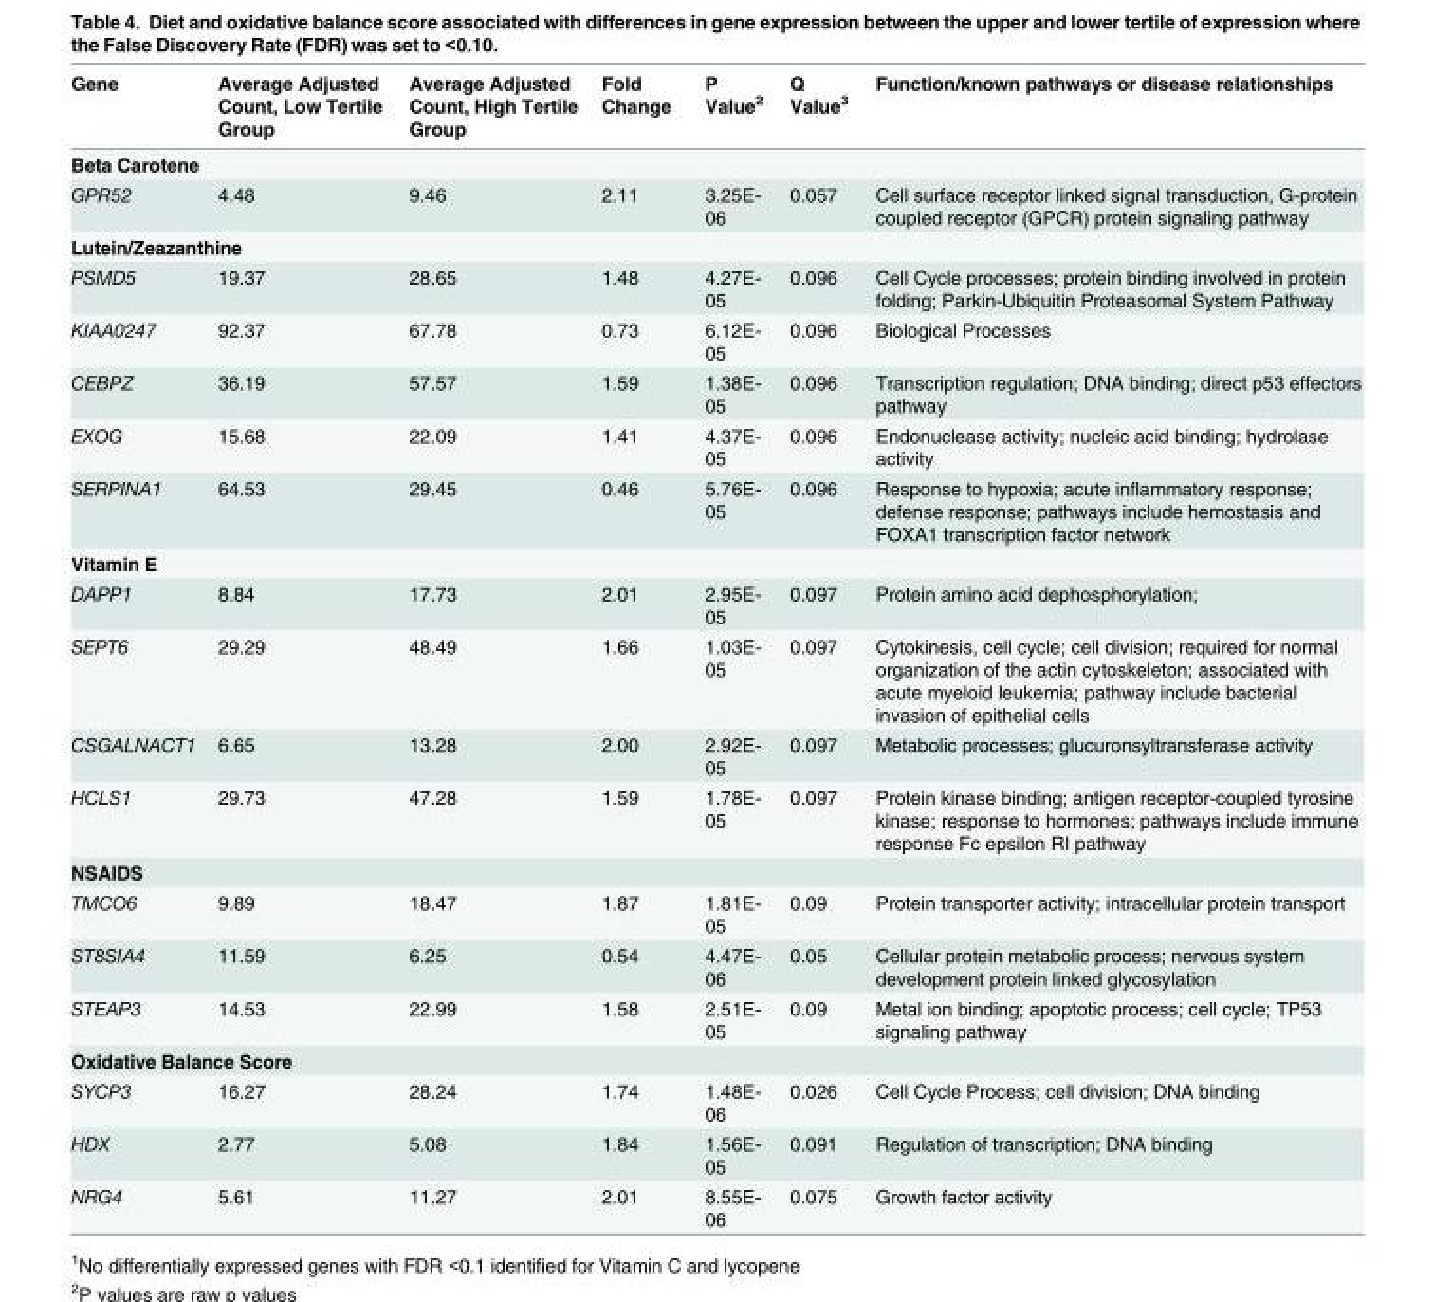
<table><thead><tr><td>Gene</td><td>Average Adjusted Count, Low Tertile Group</td><td>Average Adjusted Count, High Tertile Group</td><td>Fold Change</td><td>P Value<sup>2</sup></td><td>Q Value<sup>3</sup></td><td>Function/known pathways or disease relationships</td></tr></thead><tbody><tr><td colspan="7">Beta Carotene</td></tr><tr><td>GPR52</td><td>4.48</td><td>9.46</td><td>2.11</td><td>3.25E- 06</td><td>0.057</td><td>Cell surface receptor linked signal transduction, G-protein coupled receptor (GPCR) protein signaling pathway</td></tr><tr><td colspan="7">Lutein/Zeazanthine</td></tr><tr><td>PSMD5</td><td>19.37</td><td>28.65</td><td>1.48</td><td>4.27E- 05</td><td>0.096</td><td>Cell Cycle processes; protein binding involved in protein folding; Parkin-Ubiquitin Proteasomal System Pathway</td></tr><tr><td>KIAA0247</td><td>92.37</td><td>67.78</td><td>0.73</td><td>6.12E- 05</td><td>0.096</td><td>Biological Processes</td></tr><tr><td>CEBPZ</td><td>36.19</td><td>57.57</td><td>1.59</td><td>1.38E- 05</td><td>0.096</td><td>Transcription regulation; DNA binding; direct p53 effectors pathway</td></tr><tr><td>EXOG</td><td>15.68</td><td>22.09</td><td>1.41</td><td>4.37E- 05</td><td>0.096</td><td>Endonuclease activity; nucleic acid binding; hydrolase activity</td></tr><tr><td>SERPINA1</td><td>64.53</td><td>29.45</td><td>0.46</td><td>5.76E- 05</td><td>0.096</td><td>Response to hypoxia; acute inflammatory response; defense response; pathways include hemostasis and FOXA1 transcription factor network</td></tr><tr><td colspan="7">Vitamin E</td></tr><tr><td>DAPP1</td><td>8.84</td><td>17.73</td><td>2.01</td><td>2.95E- 05</td><td>0.097</td><td>Protein amino acid dephosphorylation;</td></tr><tr><td>SEPT6</td><td>29.29</td><td>48.49</td><td>1.66</td><td>1.03E- 05</td><td>0.097</td><td>Cytokinesis, cell cycle; cell division; required for normal organization of the actin cytoskeleton; associated with acute myeloid leukemia; pathway include bacterial invasion of epithelial cells</td></tr><tr><td>CSGALNACT1</td><td>6.65</td><td>13.28</td><td>2.00</td><td>2.92E- 05</td><td>0.097</td><td>Metabolic processes; glucuronsyltransferase activity</td></tr><tr><td>HCLS1</td><td>29.73</td><td>47.28</td><td>1.59</td><td>1.78E- 05</td><td>0.097</td><td>Protein kinase binding; antigen receptor-coupled tyrosine kinase; response to hormones; pathways include immune response Fc epsilon RI pathway</td></tr><tr><td colspan="7">NSAIDS</td></tr><tr><td>TMCO6</td><td>9.89</td><td>18.47</td><td>1.87</td><td>1.81E- 05</td><td>0.09</td><td>Protein transporter activity; intracellular protein transport</td></tr><tr><td>ST8SIA4</td><td>11.59</td><td>6.25</td><td>0.54</td><td>4.47E- 06</td><td>0.05</td><td>Cellular protein metabolic process; nervous system development protein linked glycosylation</td></tr><tr><td>STEAP3</td><td>14.53</td><td>22.99</td><td>1.58</td><td>2.51E- 05</td><td>0.09</td><td>Metal ion binding; apoptotic process; cell cycle; TP53 signaling pathway</td></tr><tr><td colspan="7">Oxidative Balance Score</td></tr><tr><td>SYCP3</td><td>16.27</td><td>28.24</td><td>1.74</td><td>1.48E- 06</td><td>0.026</td><td>Cell Cycle Process; cell division; DNA binding</td></tr><tr><td>HDX</td><td>2.77</td><td>5.08</td><td>1.84</td><td>1.56E- 05</td><td>0.091</td><td>Regulation of transcription; DNA binding</td></tr><tr><td>NRG4</td><td>5.61</td><td>11.27</td><td>2.01</td><td>8.55E- 06</td><td>0.075</td><td>Growth factor activity</td></tr></tbody></table>